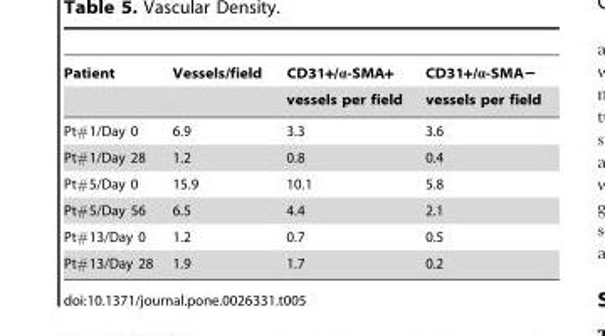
<table><thead><tr><td rowspan="2">Patient</td><td rowspan="2">Vessels/field</td><td rowspan="2">CD31+/α-SMA+ vessels per field</td><td rowspan="2">CD31+/α-SMA− vessels per field</td></tr><tr></tr></thead><tbody><tr><td>Pt#1/Day 0</td><td>6.9</td><td>3.3</td><td>3.6</td></tr><tr><td>Pt#1/Day 28</td><td>1.2</td><td>0.8</td><td>0.4</td></tr><tr><td>Pt#5/Day 0</td><td>15.9</td><td>10.1</td><td>5.8</td></tr><tr><td>Pt#5/Day 56</td><td>6.5</td><td>4.4</td><td>2.1</td></tr><tr><td>Pt#13/Day 0</td><td>1.2</td><td>0.7</td><td>0.5</td></tr><tr><td>Pt#13/Day 28</td><td>1.9</td><td>1.7</td><td>0.2</td></tr></tbody></table>